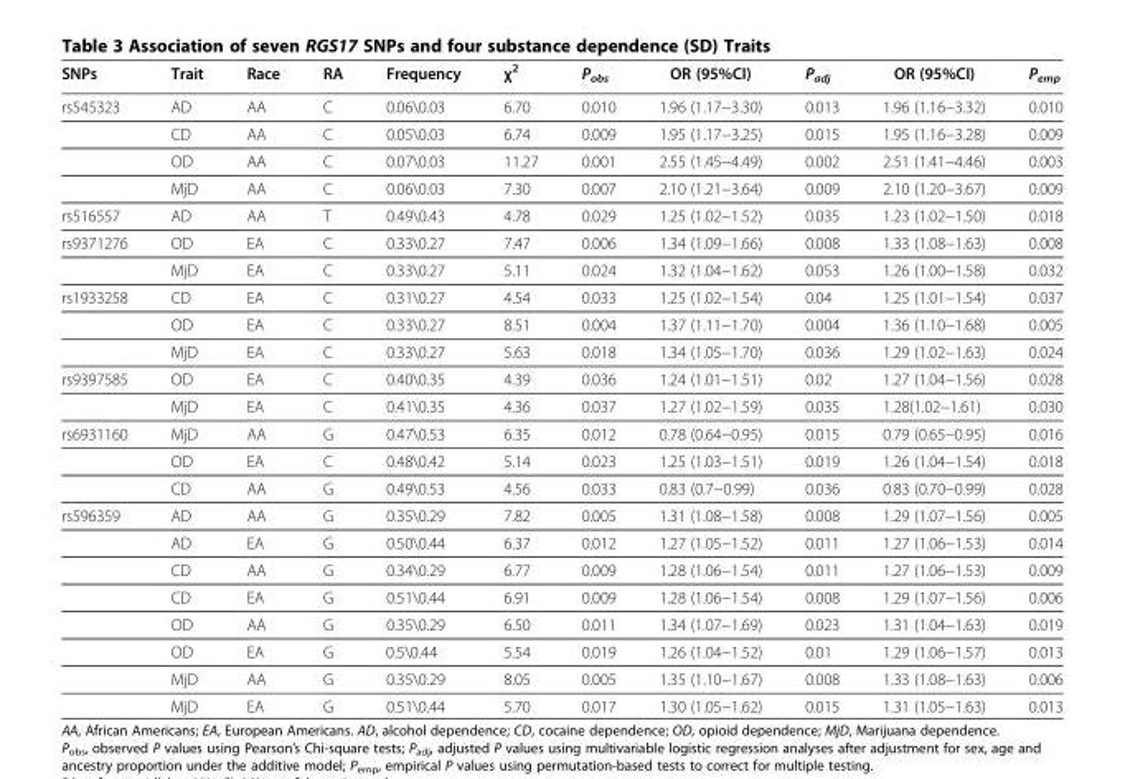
<table><thead><tr><td>SNPs</td><td>Trait</td><td>Race</td><td>RA</td><td>Frequency</td><td>χ<sup>2</sup></td><td>P<sub>obs</sub></td><td>OR (95%CI)</td><td>P<sub>adj</sub></td><td>OR (95%CI)</td><td>P<sub>emp</sub></td></tr></thead><tbody><tr><td rowspan="4">rs545323</td><td>AD</td><td>AA</td><td>C</td><td>0.06\0.03</td><td>6.70</td><td>0.010</td><td>1.96 (1.17−3.30)</td><td>0.013</td><td>1.96 (1.16−3.32)</td><td>0.010</td></tr><tr><td>CD</td><td>AA</td><td>C</td><td>0.05\0.03</td><td>6.74</td><td>0.009</td><td>1.95 (1.17−3.25)</td><td>0.015</td><td>1.95 (1.16−3.28)</td><td>0.009</td></tr><tr><td>OD</td><td>AA</td><td>C</td><td>0.07\0.03</td><td>11.27</td><td>0.001</td><td>2.55 (1.45−4.49)</td><td>0.002</td><td>2.51 (1.41−4.46)</td><td>0.003</td></tr><tr><td>MjD</td><td>AA</td><td>C</td><td>0.06\0.03</td><td>7.30</td><td>0.007</td><td>2.10 (1.21−3.64)</td><td>0.009</td><td>2.10 (1.20−3.67)</td><td>0.009</td></tr><tr><td>rs516557</td><td>AD</td><td>AA</td><td>T</td><td>0.49\0.43</td><td>4.78</td><td>0.029</td><td>1.25 (1.02−1.52)</td><td>0.035</td><td>1.23 (1.02−1.50)</td><td>0.018</td></tr><tr><td rowspan="2">rs9371276</td><td>OD</td><td>EA</td><td>C</td><td>0.33\0.27</td><td>7.47</td><td>0.006</td><td>1.34 (1.09−1.66)</td><td>0.008</td><td>1.33 (1.08−1.63)</td><td>0.008</td></tr><tr><td>MjD</td><td>EA</td><td>C</td><td>0.33\0.27</td><td>5.11</td><td>0.024</td><td>1.32 (1.04−1.62)</td><td>0.053</td><td>1.26 (1.00−1.58)</td><td>0.032</td></tr><tr><td rowspan="3">rs1933258</td><td>CD</td><td>EA</td><td>C</td><td>0.31\0.27</td><td>4.54</td><td>0.033</td><td>1.25 (1.02−1.54)</td><td>0.04</td><td>1.25 (1.01−1.54)</td><td>0.037</td></tr><tr><td>OD</td><td>EA</td><td>C</td><td>0.33\0.27</td><td>8.51</td><td>0.004</td><td>1.37 (1.11−1.70)</td><td>0.004</td><td>1.36 (1.10−1.68)</td><td>0.005</td></tr><tr><td>MjD</td><td>EA</td><td>C</td><td>0.33\0.27</td><td>5.63</td><td>0.018</td><td>1.34 (1.05−1.70)</td><td>0.036</td><td>1.29 (1.02−1.63)</td><td>0.024</td></tr><tr><td rowspan="2">rs9397585</td><td>OD</td><td>EA</td><td>C</td><td>0.40\0.35</td><td>4.39</td><td>0.036</td><td>1.24 (1.01−1.51)</td><td>0.02</td><td>1.27 (1.04−1.56)</td><td>0.028</td></tr><tr><td>MjD</td><td>EA</td><td>C</td><td>0.41\0.35</td><td>4.36</td><td>0.037</td><td>1.27 (1.02−1.59)</td><td>0.035</td><td>1.28(1.02−1.61)</td><td>0.030</td></tr><tr><td rowspan="3">rs6931160</td><td>MjD</td><td>AA</td><td>G</td><td>0.47\0.53</td><td>6.35</td><td>0.012</td><td>0.78 (0.64−0.95)</td><td>0.015</td><td>0.79 (0.65−0.95)</td><td>0.016</td></tr><tr><td>OD</td><td>EA</td><td>C</td><td>0.48\0.42</td><td>5.14</td><td>0.023</td><td>1.25 (1.03−1.51)</td><td>0.019</td><td>1.26 (1.04−1.54)</td><td>0.018</td></tr><tr><td>CD</td><td>AA</td><td>G</td><td>0.49\0.53</td><td>4.56</td><td>0.033</td><td>0.83 (0.7−0.99)</td><td>0.036</td><td>0.83 (0.70−0.99)</td><td>0.028</td></tr><tr><td rowspan="8">rs596359</td><td>AD</td><td>AA</td><td>G</td><td>0.35\0.29</td><td>7.82</td><td>0.005</td><td>1.31 (1.08−1.58)</td><td>0.008</td><td>1.29 (1.07−1.56)</td><td>0.005</td></tr><tr><td>AD</td><td>EA</td><td>G</td><td>0.50\0.44</td><td>6.37</td><td>0.012</td><td>1.27 (1.05−1.52)</td><td>0.011</td><td>1.27 (1.06−1.53)</td><td>0.014</td></tr><tr><td>CD</td><td>AA</td><td>G</td><td>0.34\0.29</td><td>6.77</td><td>0.009</td><td>1.28 (1.06−1.54)</td><td>0.011</td><td>1.27 (1.06−1.53)</td><td>0.009</td></tr><tr><td>CD</td><td>EA</td><td>G</td><td>0.51\0.44</td><td>6.91</td><td>0.009</td><td>1.28 (1.06−1.54)</td><td>0.008</td><td>1.29 (1.07−1.56)</td><td>0.006</td></tr><tr><td>OD</td><td>AA</td><td>G</td><td>0.35\0.29</td><td>6.50</td><td>0.011</td><td>1.34 (1.07−1.69)</td><td>0.023</td><td>1.31 (1.04−1.63)</td><td>0.019</td></tr><tr><td>OD</td><td>EA</td><td>G</td><td>0.5\0.44</td><td>5.54</td><td>0.019</td><td>1.26 (1.04−1.52)</td><td>0.01</td><td>1.29 (1.06−1.57)</td><td>0.013</td></tr><tr><td>MjD</td><td>AA</td><td>G</td><td>0.35\0.29</td><td>8.05</td><td>0.005</td><td>1.35 (1.10−1.67)</td><td>0.008</td><td>1.33 (1.08−1.63)</td><td>0.006</td></tr><tr><td>MjD</td><td>EA</td><td>G</td><td>0.51\0.44</td><td>5.70</td><td>0.017</td><td>1.30 (1.05−1.62)</td><td>0.015</td><td>1.31 (1.05−1.63)</td><td>0.013</td></tr></tbody></table>